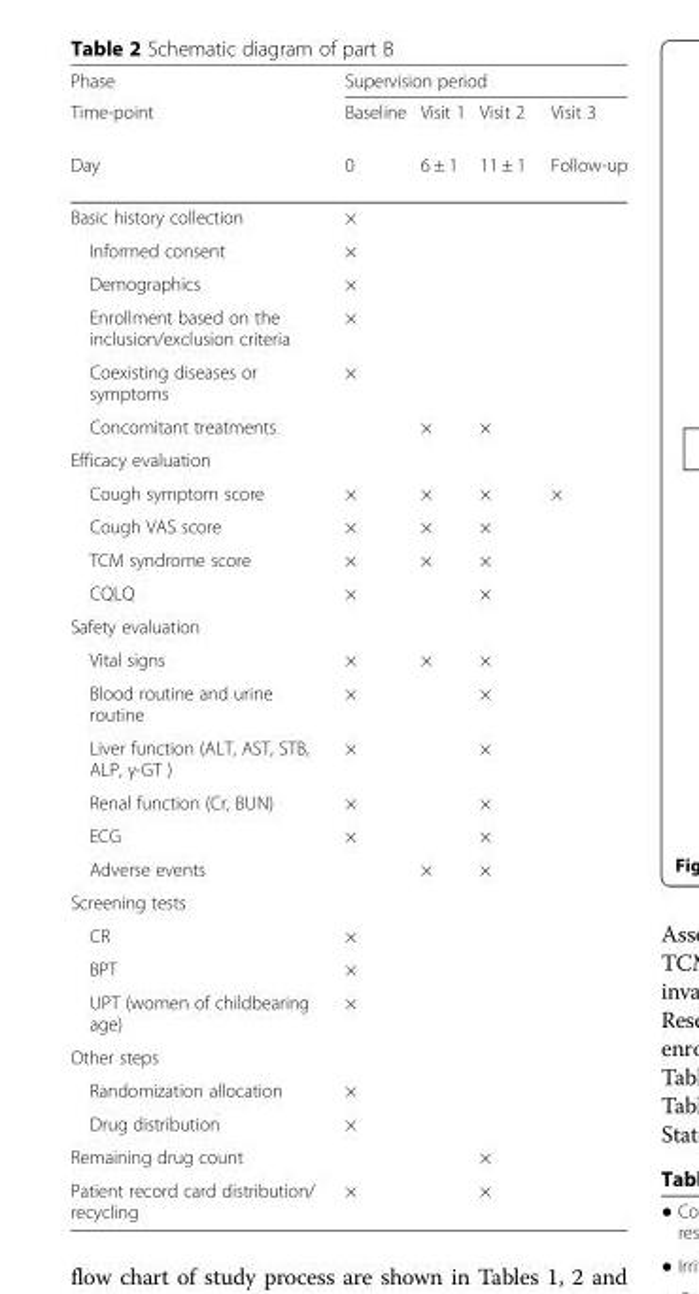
<table><thead><tr><td rowspan="3">Phase Time-point Day</td><td colspan="4">Supervision period</td></tr><tr><td rowspan="2">Baseline 0</td><td rowspan="2">Visit 1 6 ± 1</td><td rowspan="2">Visit 2 11 ± 1</td><td rowspan="2">Visit 3 Follow-up</td></tr><tr></tr></thead><tbody><tr><td>Basic history collection</td><td>×</td><td></td><td></td><td></td></tr><tr><td>Informed consent</td><td>×</td><td></td><td></td><td></td></tr><tr><td>Demographics</td><td>×</td><td></td><td></td><td></td></tr><tr><td>Enrollment based on the inclusion/exclusion criteria</td><td>×</td><td></td><td></td><td></td></tr><tr><td>Coexisting diseases or symptoms</td><td>×</td><td></td><td></td><td></td></tr><tr><td>Concomitant treatments</td><td></td><td>×</td><td>×</td><td></td></tr><tr><td colspan="5">Efficacy evaluation</td></tr><tr><td>Cough symptom score</td><td>×</td><td>×</td><td>×</td><td>×</td></tr><tr><td>Cough VAS score</td><td>×</td><td>×</td><td>×</td><td></td></tr><tr><td>TCM syndrome score</td><td>×</td><td>×</td><td>×</td><td></td></tr><tr><td>CQLQ</td><td>×</td><td></td><td>×</td><td></td></tr><tr><td colspan="5">Safety evaluation</td></tr><tr><td>Vital signs</td><td>×</td><td>×</td><td>×</td><td></td></tr><tr><td>Blood routine and urine routine</td><td>×</td><td></td><td>×</td><td></td></tr><tr><td>Liver function (ALT, AST, STB, ALP, γ-GT )</td><td>×</td><td></td><td>×</td><td></td></tr><tr><td>Renal function (Cr, BUN)</td><td>×</td><td></td><td>×</td><td></td></tr><tr><td>ECG</td><td>×</td><td></td><td>×</td><td></td></tr><tr><td>Adverse events</td><td></td><td>×</td><td>×</td><td></td></tr><tr><td colspan="5">Screening tests</td></tr><tr><td>CR</td><td>×</td><td></td><td></td><td></td></tr><tr><td>BPT</td><td>×</td><td></td><td></td><td></td></tr><tr><td>UPT (women of childbearing age)</td><td>×</td><td></td><td></td><td></td></tr><tr><td colspan="5">Other steps</td></tr><tr><td>Randomization allocation</td><td>×</td><td></td><td></td><td></td></tr><tr><td>Drug distribution</td><td>×</td><td></td><td></td><td></td></tr><tr><td>Remaining drug count</td><td></td><td></td><td>×</td><td></td></tr><tr><td>Patient record card distribution/ recycling</td><td>×</td><td></td><td>×</td><td></td></tr></tbody></table>